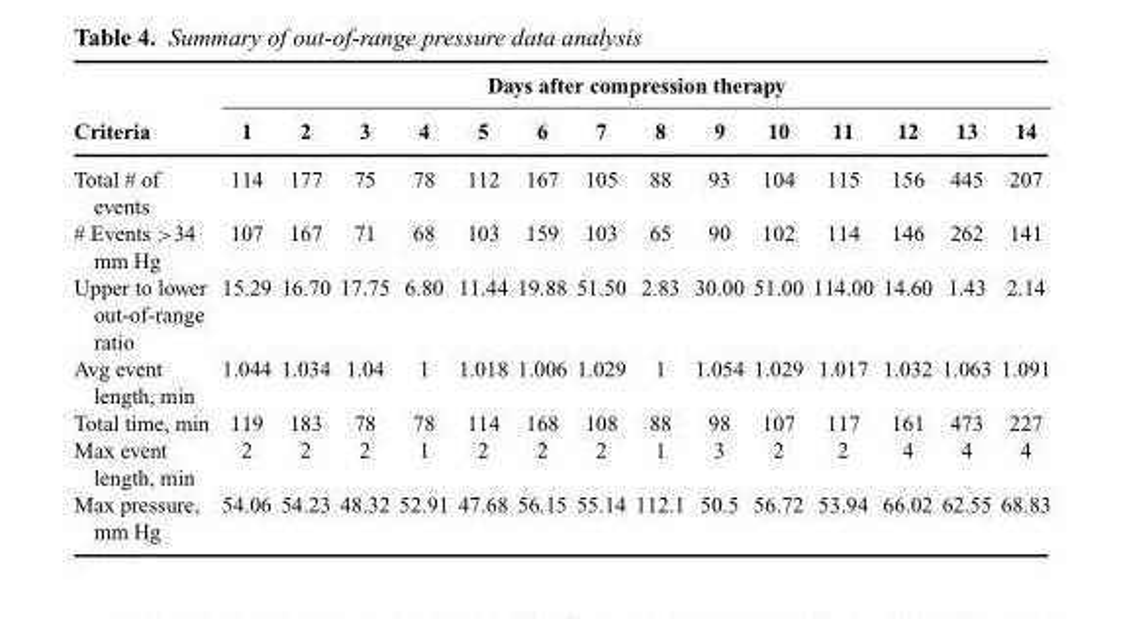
<table><thead><tr><td rowspan="2">Criteria</td><td colspan="14">Days after compression therapy</td></tr><tr><td>1</td><td>2</td><td>3</td><td>4</td><td>5</td><td>6</td><td>7</td><td>8</td><td>9</td><td>10</td><td>11</td><td>12</td><td>13</td><td>14</td></tr></thead><tbody><tr><td>Total # of events</td><td>114</td><td>177</td><td>75</td><td>78</td><td>112</td><td>167</td><td>105</td><td>88</td><td>93</td><td>104</td><td>115</td><td>156</td><td>445</td><td>207</td></tr><tr><td># Events &gt;34 mm Hg</td><td>107</td><td>167</td><td>71</td><td>68</td><td>103</td><td>159</td><td>103</td><td>65</td><td>90</td><td>102</td><td>114</td><td>146</td><td>262</td><td>141</td></tr><tr><td>Upper to lower out-of-range ratio</td><td>15.29</td><td>16.70</td><td>17.75</td><td>6.80</td><td>11.44</td><td>19.88</td><td>51.50</td><td>2.83</td><td>30.00</td><td>51.00</td><td>114.00</td><td>14.60</td><td>1.43</td><td>2.14</td></tr><tr><td>Avg event length, min</td><td>1.044</td><td>1.034</td><td>1.04</td><td>1</td><td>1.018</td><td>1.006</td><td>1.029</td><td>1</td><td>1.054</td><td>1.029</td><td>1.017</td><td>1.032</td><td>1.063</td><td>1.091</td></tr><tr><td>Total time, min</td><td>119</td><td>183</td><td>78</td><td>78</td><td>114</td><td>168</td><td>108</td><td>88</td><td>98</td><td>107</td><td>117</td><td>161</td><td>473</td><td>227</td></tr><tr><td>Max event length, min</td><td>2</td><td>2</td><td>2</td><td>1</td><td>2</td><td>2</td><td>2</td><td>1</td><td>3</td><td>2</td><td>2</td><td>4</td><td>4</td><td>4</td></tr><tr><td>Max pressure, mm Hg</td><td>54.06</td><td>54.23</td><td>48.32</td><td>52.91</td><td>47.68</td><td>56.15</td><td>55.14</td><td>112.1</td><td>50.5</td><td>56.72</td><td>53.94</td><td>66.02</td><td>62.55</td><td>68.83</td></tr></tbody></table>